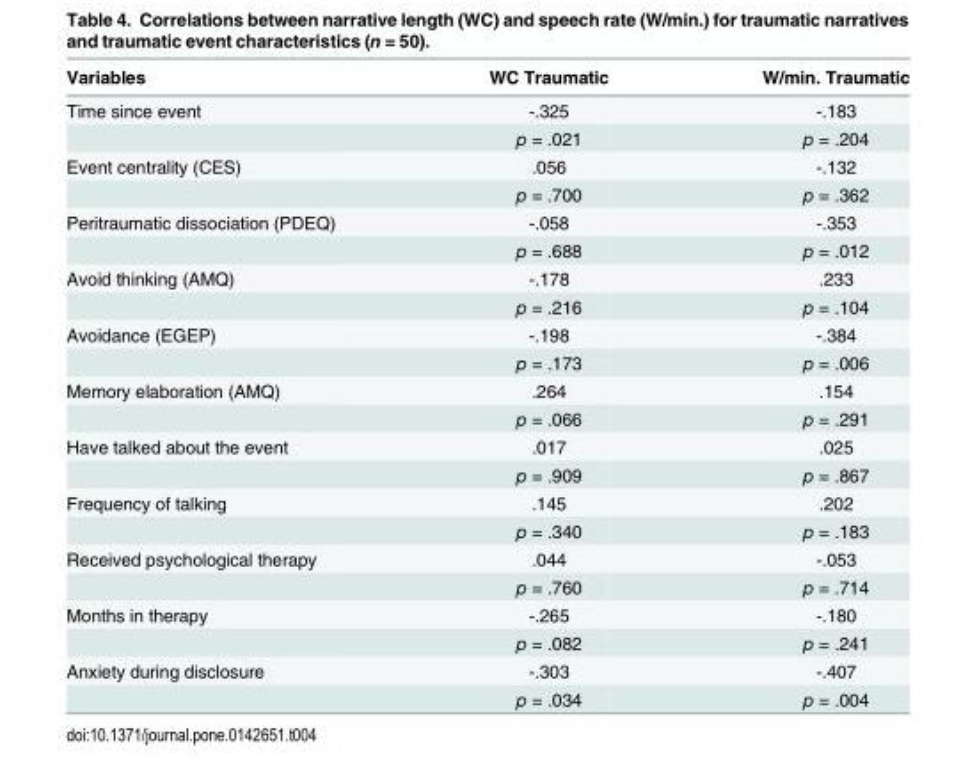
<table><thead><tr><td>Variables</td><td>WC Traumatic</td><td>W/min. Traumatic</td></tr></thead><tbody><tr><td rowspan="2">Time since event</td><td>-.325</td><td>-.183</td></tr><tr><td>p = .021</td><td>p = .204</td></tr><tr><td rowspan="2">Event centrality (CES)</td><td>.056</td><td>-.132</td></tr><tr><td>p = .700</td><td>p = .362</td></tr><tr><td rowspan="2">Peritraumatic dissociation (PDEQ)</td><td>-.058</td><td>-.353</td></tr><tr><td>p = .688</td><td>p = .012</td></tr><tr><td rowspan="2">Avoid thinking (AMQ)</td><td>-.178</td><td>.233</td></tr><tr><td>p = .216</td><td>p = .104</td></tr><tr><td rowspan="2">Avoidance (EGEP)</td><td>-.198</td><td>-.384</td></tr><tr><td>p = .173</td><td>p = .006</td></tr><tr><td rowspan="2">Memory elaboration (AMQ)</td><td>.264</td><td>.154</td></tr><tr><td>p = .066</td><td>p = .291</td></tr><tr><td rowspan="2">Have talked about the event</td><td>.017</td><td>.025</td></tr><tr><td>p = .909</td><td>p = .867</td></tr><tr><td rowspan="2">Frequency of talking</td><td>.145</td><td>.202</td></tr><tr><td>p = .340</td><td>p = .183</td></tr><tr><td rowspan="2">Received psychological therapy</td><td>.044</td><td>-.053</td></tr><tr><td>p = .760</td><td>p = .714</td></tr><tr><td rowspan="2">Months in therapy</td><td>-.265</td><td>-.180</td></tr><tr><td>p = .082</td><td>p = .241</td></tr><tr><td rowspan="2">Anxiety during disclosure</td><td>-.303</td><td>-.407</td></tr><tr><td>p = .034</td><td>p = .004</td></tr></tbody></table>